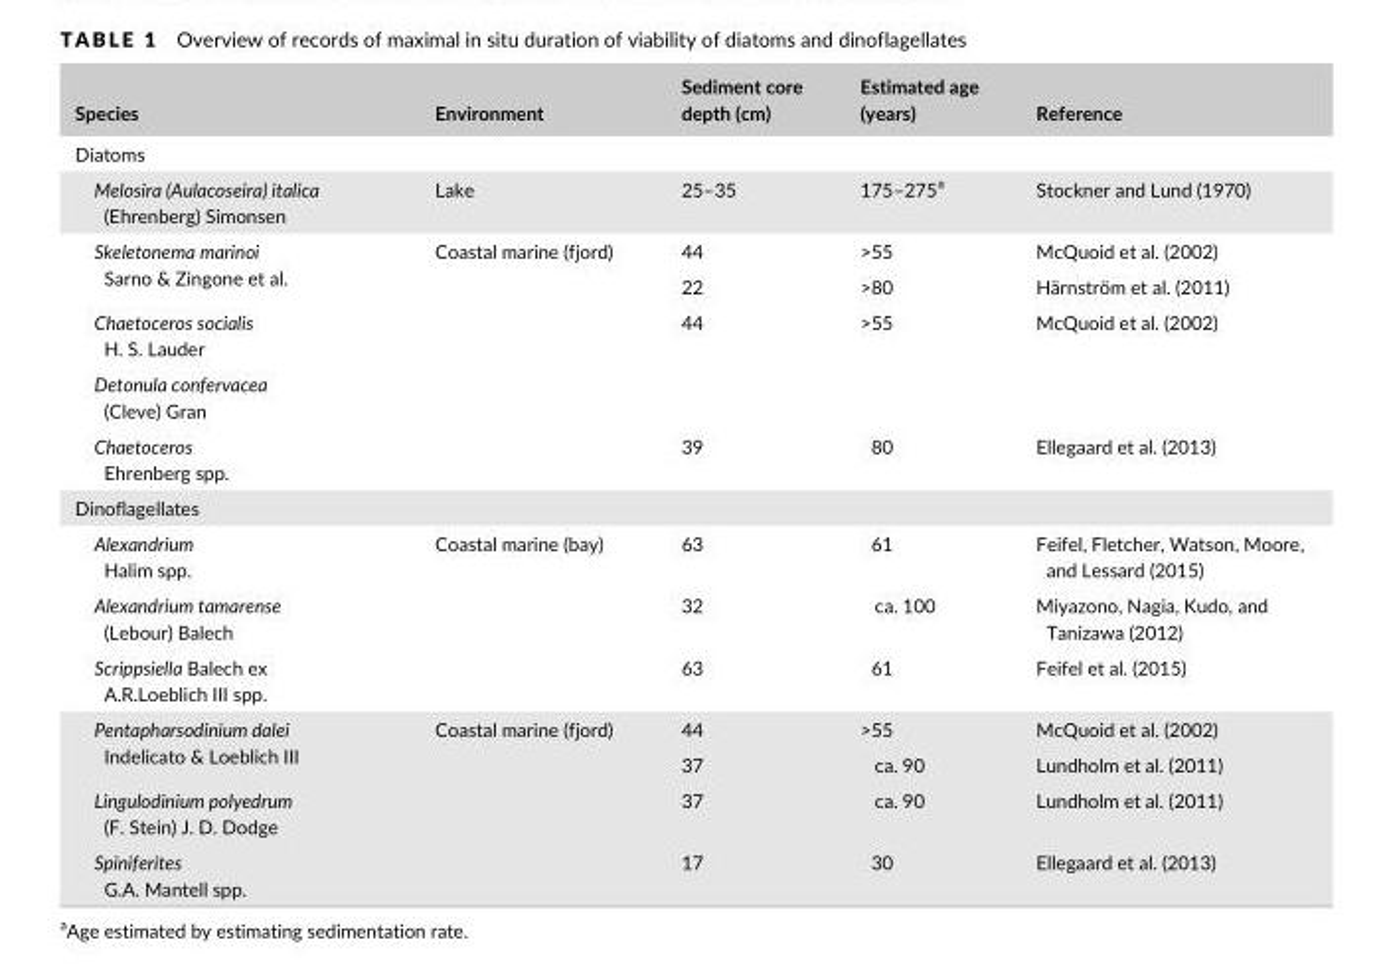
<table><thead><tr><td>Species</td><td>Environment</td><td>Sediment core depth (cm)</td><td>Estimated age (years)</td><td>Reference</td></tr></thead><tbody><tr><td colspan="5">Diatoms</td></tr><tr><td>Melosira (Aulacoseira) italica (Ehrenberg) Simonsen</td><td>Lake</td><td>25–35</td><td>175–275<sup>a</sup></td><td>Stockner and Lund (1970)</td></tr><tr><td rowspan="2">Skeletonema marinoi Sarno &amp; Zingone et al.</td><td rowspan="5">Coastal marine (fjord)</td><td>44</td><td>&gt;55</td><td>McQuoid et al. (2002)</td></tr><tr><td>22</td><td>&gt;80</td><td>Härnström et al. (2011)</td></tr><tr><td>Chaetoceros socialis H. S. Lauder</td><td rowspan="2">44</td><td rowspan="2">&gt;55</td><td rowspan="2">McQuoid et al. (2002)</td></tr><tr><td>Detonula confervacea (Cleve) Gran</td></tr><tr><td>Chaetoceros Ehrenberg spp.</td><td>39</td><td>80</td><td>Ellegaard et al. (2013)</td></tr><tr><td colspan="5">Dinoflagellates</td></tr><tr><td>Alexandrium Halim spp.</td><td rowspan="3">Coastal marine (bay)</td><td>63</td><td>61</td><td>Feifel, Fletcher, Watson, Moore, and Lessard (2015)</td></tr><tr><td>Alexandrium tamarense (Lebour) Balech</td><td>32</td><td>ca. 100</td><td>Miyazono, Nagia, Kudo, and Tanizawa (2012)</td></tr><tr><td>Scrippsiella Balech ex A.R.Loeblich III spp.</td><td>63</td><td>61</td><td>Feifel et al. (2015)</td></tr><tr><td rowspan="2">Pentapharsodinium dalei Indelicato &amp; Loeblich III</td><td rowspan="4">Coastal marine (fjord)</td><td>44</td><td>&gt;55</td><td>McQuoid et al. (2002)</td></tr><tr><td>37</td><td>ca. 90</td><td>Lundholm et al. (2011)</td></tr><tr><td>Lingulodinium polyedrum (F. Stein) J. D. Dodge</td><td>37</td><td>ca. 90</td><td>Lundholm et al. (2011)</td></tr><tr><td>Spiniferites G.A. Mantell spp.</td><td>17</td><td>30</td><td>Ellegaard et al. (2013)</td></tr></tbody></table>